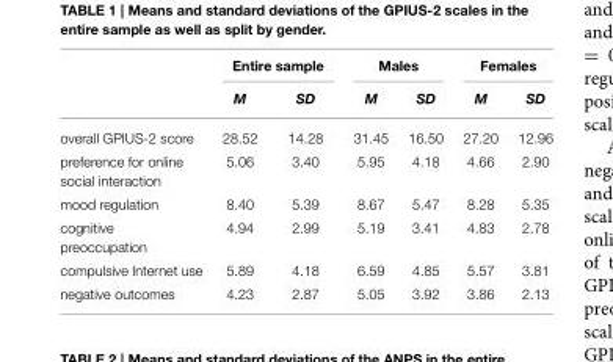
<table><thead><tr><td rowspan="2"></td><td colspan="2">Entire sample</td><td colspan="2">Males</td><td colspan="2">Females</td></tr><tr><td>M</td><td>SD</td><td>M</td><td>SD</td><td>M</td><td>SD</td></tr></thead><tbody><tr><td>overall GPIUS-2 score</td><td>28.52</td><td>14.28</td><td>31.45</td><td>16.50</td><td>27.20</td><td>12.96</td></tr><tr><td>preference for online social interaction</td><td>5.06</td><td>3.40</td><td>5.95</td><td>4.18</td><td>4.66</td><td>2.90</td></tr><tr><td>mood regulation</td><td>8.40</td><td>5.39</td><td>8.67</td><td>5.47</td><td>8.28</td><td>5.35</td></tr><tr><td>cognitive preoccupation</td><td>4.94</td><td>2.99</td><td>5.19</td><td>3.41</td><td>4.83</td><td>2.78</td></tr><tr><td>compulsive Internet use</td><td>5.89</td><td>4.18</td><td>6.59</td><td>4.85</td><td>5.57</td><td>3.81</td></tr><tr><td>negative outcomes</td><td>4.23</td><td>2.87</td><td>5.05</td><td>3.92</td><td>3.86</td><td>2.13</td></tr></tbody></table>